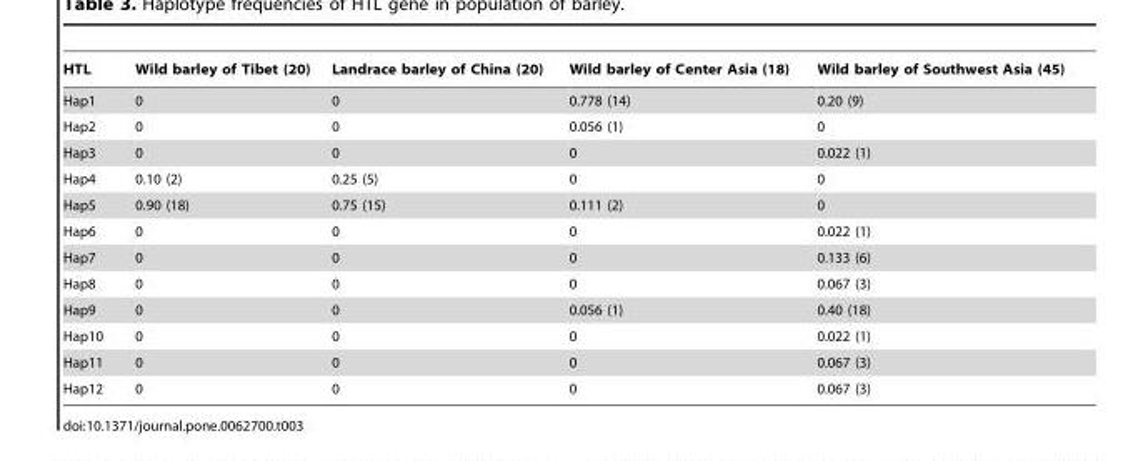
<table><thead><tr><td>HTL</td><td>Wild barley of Tibet (20)</td><td>Landrace barley of China (20)</td><td>Wild barley of Center Asia (18)</td><td>Wild barley of Southwest Asia (45)</td></tr></thead><tbody><tr><td>Hap1</td><td>0</td><td>0</td><td>0.778 (14)</td><td>0.20 (9)</td></tr><tr><td>Hap2</td><td>0</td><td>0</td><td>0.056 (1)</td><td>0</td></tr><tr><td>Hap3</td><td>0</td><td>0</td><td>0</td><td>0.022 (1)</td></tr><tr><td>Hap4</td><td>0.10 (2)</td><td>0.25 (5)</td><td>0</td><td>0</td></tr><tr><td>Hap5</td><td>0.90 (18)</td><td>0.75 (15)</td><td>0.111 (2)</td><td>0</td></tr><tr><td>Hap6</td><td>0</td><td>0</td><td>0</td><td>0.022 (1)</td></tr><tr><td>Hap7</td><td>0</td><td>0</td><td>0</td><td>0.133 (6)</td></tr><tr><td>Hap8</td><td>0</td><td>0</td><td>0</td><td>0.067 (3)</td></tr><tr><td>Hap9</td><td>0</td><td>0</td><td>0.056 (1)</td><td>0.40 (18)</td></tr><tr><td>Hap10</td><td>0</td><td>0</td><td>0</td><td>0.022 (1)</td></tr><tr><td>Hap11</td><td>0</td><td>0</td><td>0</td><td>0.067 (3)</td></tr><tr><td>Hap12</td><td>0</td><td>0</td><td>0</td><td>0.067 (3)</td></tr></tbody></table>